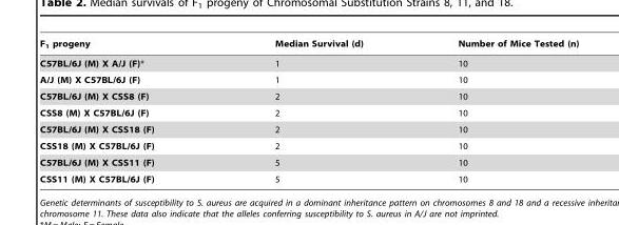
<table><thead><tr><td>F<sub>1</sub> progeny</td><td>Median Survival (d)</td><td>Number of Mice Tested (n)</td></tr></thead><tbody><tr><td>C57BL/6J (M) X A/J (F)*</td><td>1</td><td>10</td></tr><tr><td>A/J (M) X C57BL/6J (F)</td><td>1</td><td>10</td></tr><tr><td>C57BL/6J (M) X CSS8 (F)</td><td>2</td><td>10</td></tr><tr><td>CSS8 (M) X C57BL/6J (F)</td><td>2</td><td>10</td></tr><tr><td>C57BL/6J (M) X CSS18 (F)</td><td>2</td><td>10</td></tr><tr><td>CSS18 (M) X C57BL/6J (F)</td><td>2</td><td>10</td></tr><tr><td>C57BL/6J (M) X CSS11 (F)</td><td>5</td><td>10</td></tr><tr><td>CSS11 (M) X C57BL/6J (F)</td><td>5</td><td>10</td></tr></tbody></table>